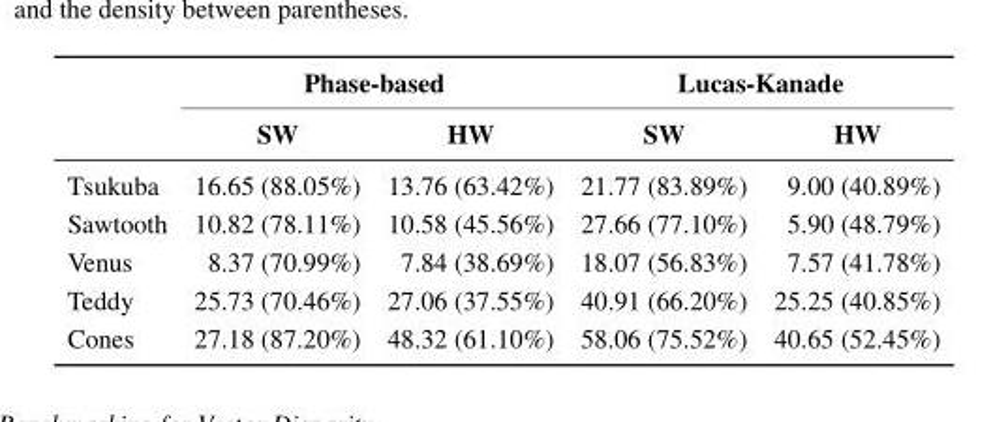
<table><thead><tr><td rowspan="2"></td><td colspan="2">Phase-based</td><td colspan="2">Lucas-Kanade</td></tr><tr><td>SW</td><td>HW</td><td>SW</td><td>HW</td></tr></thead><tbody><tr><td>Tsukuba</td><td>16.65 (88.05%)</td><td>13.76 (63.42%)</td><td>21.77 (83.89%)</td><td>9.00 (40.89%)</td></tr><tr><td>Sawtooth</td><td>10.82 (78.11%)</td><td>10.58 (45.56%)</td><td>27.66 (77.10%)</td><td>5.90 (48.79%)</td></tr><tr><td>Venus</td><td>8.37 (70.99%)</td><td>7.84 (38.69%)</td><td>18.07 (56.83%)</td><td>7.57 (41.78%)</td></tr><tr><td>Teddy</td><td>25.73 (70.46%)</td><td>27.06 (37.55%)</td><td>40.91 (66.20%)</td><td>25.25 (40.85%)</td></tr><tr><td>Cones</td><td>27.18 (87.20%)</td><td>48.32 (61.10%)</td><td>58.06 (75.52%)</td><td>40.65 (52.45%)</td></tr></tbody></table>